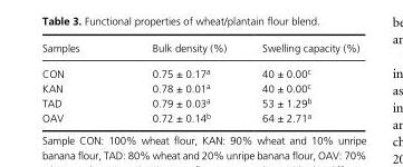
<table><thead><tr><td>Samples</td><td>Bulk density (%)</td><td>Swelling capacity (%)</td></tr></thead><tbody><tr><td>CON</td><td>0.75 ± 0.17<sup>a</sup></td><td>40 ± 0.00<sup>c</sup></td></tr><tr><td>KAN</td><td>0.78 ± 0.01<sup>a</sup></td><td>40 ± 0.00<sup>c</sup></td></tr><tr><td>TAD</td><td>0.79 ± 0.03<sup>a</sup></td><td>53 ± 1.29<sup>b</sup></td></tr><tr><td>OAV</td><td>0.72 ± 0.14<sup>b</sup></td><td>64 ± 2.71<sup>a</sup></td></tr></tbody></table>